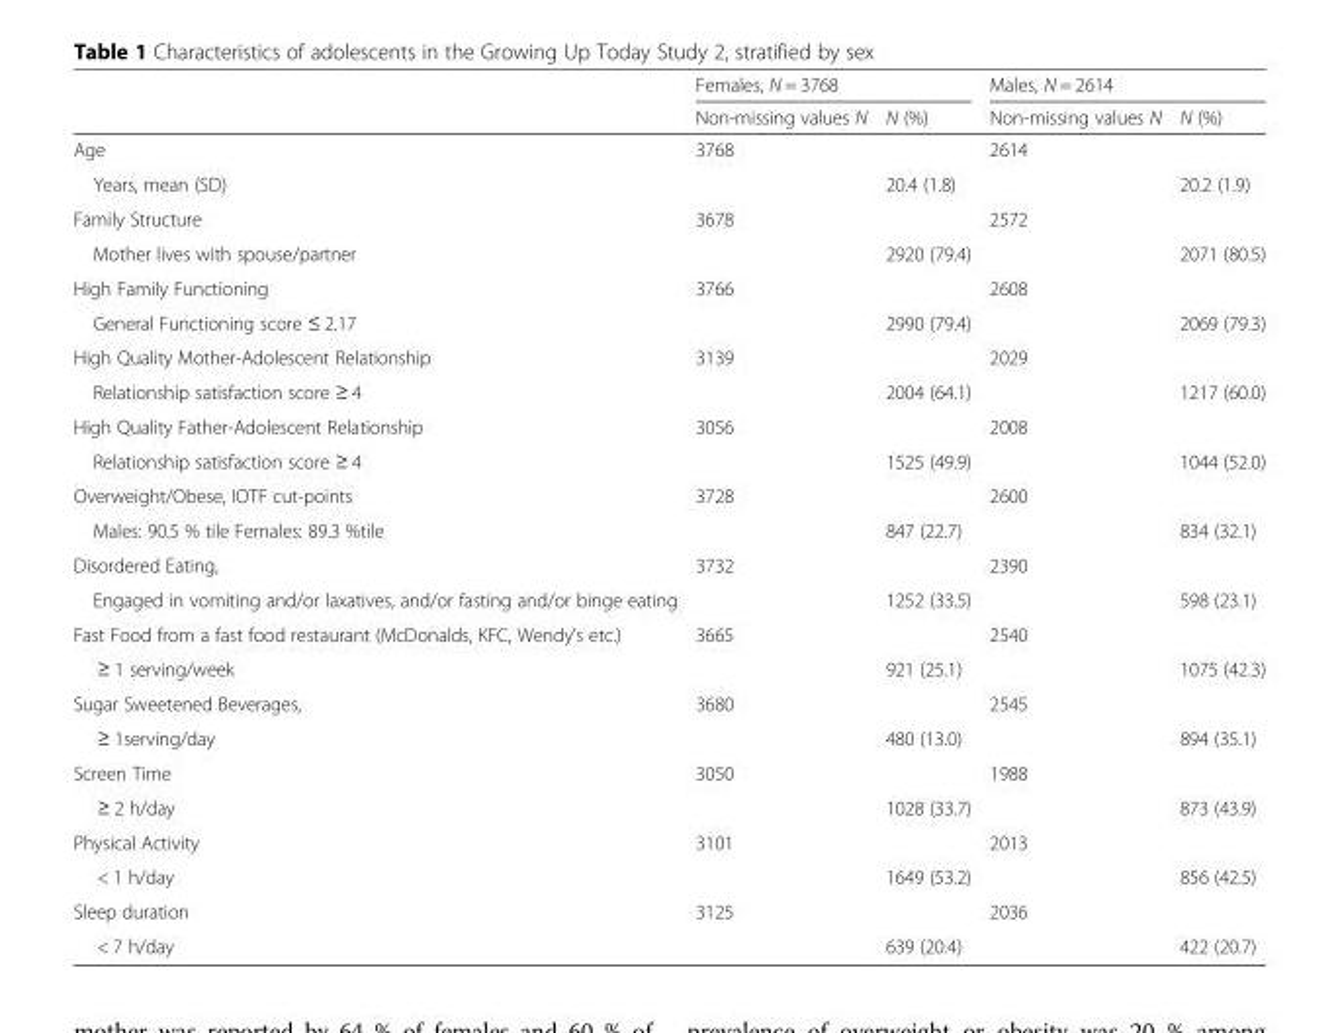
<table><thead><tr><td rowspan="2"></td><td colspan="2">Females, N = 3768</td><td colspan="2">Males, N = 2614</td></tr><tr><td>Non-missing values N</td><td>N (%)</td><td>Non-missing values N</td><td>N (%)</td></tr></thead><tbody><tr><td>Age</td><td>3768</td><td></td><td>2614</td><td></td></tr><tr><td>Years, mean (SD)</td><td></td><td>20.4 (1.8)</td><td></td><td>20.2 (1.9)</td></tr><tr><td>Family Structure</td><td>3678</td><td></td><td>2572</td><td></td></tr><tr><td>Mother lives with spouse/partner</td><td></td><td>2920 (79.4)</td><td></td><td>2071 (80.5)</td></tr><tr><td>High Family Functioning</td><td>3766</td><td></td><td>2608</td><td></td></tr><tr><td>General Functioning score ≤ 2.17</td><td></td><td>2990 (79.4)</td><td></td><td>2069 (79.3)</td></tr><tr><td>High Quality Mother-Adolescent Relationship</td><td>3139</td><td></td><td>2029</td><td></td></tr><tr><td>Relationship satisfaction score ≥ 4</td><td></td><td>2004 (64.1)</td><td></td><td>1217 (60.0)</td></tr><tr><td>High Quality Father-Adolescent Relationship</td><td>3056</td><td></td><td>2008</td><td></td></tr><tr><td>Relationship satisfaction score ≥ 4</td><td></td><td>1525 (49.9)</td><td></td><td>1044 (52.0)</td></tr><tr><td>Overweight/Obese, IOTF cut-points</td><td>3728</td><td></td><td>2600</td><td></td></tr><tr><td>Males: 90.5 % tile Females: 89.3 %tile</td><td></td><td>847 (22.7)</td><td></td><td>834 (32.1)</td></tr><tr><td>Disordered Eating,</td><td>3732</td><td></td><td>2390</td><td></td></tr><tr><td>Engaged in vomiting and/or laxatives, and/or fasting and/or binge eating</td><td></td><td>1252 (33.5)</td><td></td><td>598 (23.1)</td></tr><tr><td>Fast Food from a fast food restaurant (McDonalds, KFC, Wendy’s etc.)</td><td>3665</td><td></td><td>2540</td><td></td></tr><tr><td>≥ 1 serving/week</td><td></td><td>921 (25.1)</td><td></td><td>1075 (42.3)</td></tr><tr><td>Sugar Sweetened Beverages,</td><td>3680</td><td></td><td>2545</td><td></td></tr><tr><td>≥ 1serving/day</td><td></td><td>480 (13.0)</td><td></td><td>894 (35.1)</td></tr><tr><td>Screen Time</td><td>3050</td><td></td><td>1988</td><td></td></tr><tr><td>≥ 2 h/day</td><td></td><td>1028 (33.7)</td><td></td><td>873 (43.9)</td></tr><tr><td>Physical Activity</td><td>3101</td><td></td><td>2013</td><td></td></tr><tr><td>&lt; 1 h/day</td><td></td><td>1649 (53.2)</td><td></td><td>856 (42.5)</td></tr><tr><td>Sleep duration</td><td>3125</td><td></td><td>2036</td><td></td></tr><tr><td>&lt; 7 h/day</td><td></td><td>639 (20.4)</td><td></td><td>422 (20.7)</td></tr></tbody></table>